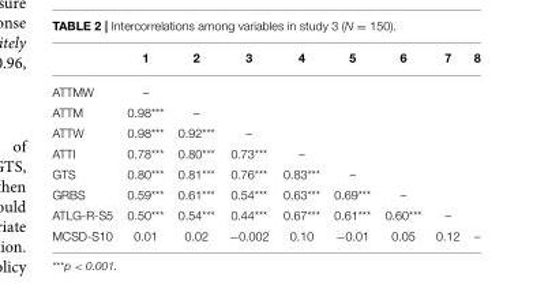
<table><thead><tr><td></td><td>1</td><td>2</td><td>3</td><td>4</td><td>5</td><td>6</td><td>7</td><td>8</td></tr></thead><tbody><tr><td>ATTMW</td><td>–</td><td></td><td></td><td></td><td></td><td></td><td></td><td></td></tr><tr><td>ATTM</td><td>0.98***</td><td>–</td><td></td><td></td><td></td><td></td><td></td><td></td></tr><tr><td>ATTW</td><td>0.98***</td><td>0.92***</td><td>–</td><td></td><td></td><td></td><td></td><td></td></tr><tr><td>ATTI</td><td>0.78***</td><td>0.80***</td><td>0.73***</td><td>–</td><td></td><td></td><td></td><td></td></tr><tr><td>GTS</td><td>0.80***</td><td>0.81***</td><td>0.76***</td><td>0.83***</td><td>–</td><td></td><td></td><td></td></tr><tr><td>GRBS</td><td>0.59***</td><td>0.61***</td><td>0.54***</td><td>0.63***</td><td>0.69***</td><td>–</td><td></td><td></td></tr><tr><td>ATLG-R-S5</td><td>0.50***</td><td>0.54***</td><td>0.44***</td><td>0.67***</td><td>0.61***</td><td>0.60***</td><td>–</td><td></td></tr><tr><td>MCSD-S10</td><td>0.01</td><td>0.02</td><td>−0.002</td><td>0.10</td><td>−0.01</td><td>0.05</td><td>0.12</td><td>–</td></tr></tbody></table>